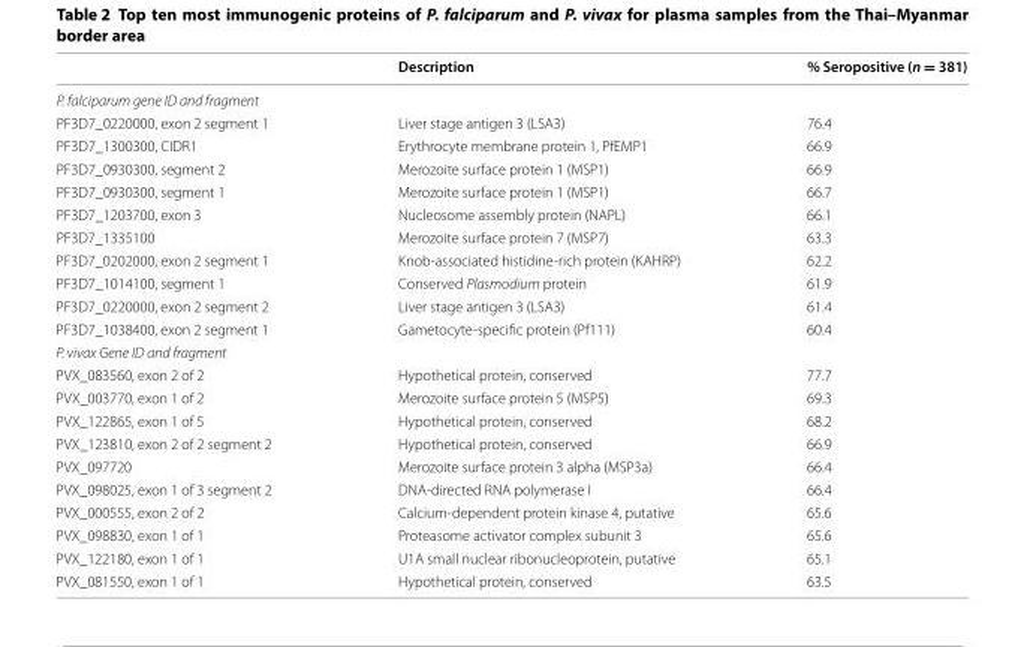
<table><thead><tr><td></td><td>Description</td><td>% Seropositive (n = 381)</td></tr></thead><tbody><tr><td colspan="3">P. falciparum gene ID and fragment</td></tr><tr><td>PF3D7_0220000, exon 2 segment 1</td><td>Liver stage antigen 3 (LSA3)</td><td>76.4</td></tr><tr><td>PF3D7_1300300, CIDR1</td><td>Erythrocyte membrane protein 1, PfEMP1</td><td>66.9</td></tr><tr><td>PF3D7_0930300, segment 2</td><td>Merozoite surface protein 1 (MSP1)</td><td>66.9</td></tr><tr><td>PF3D7_0930300, segment 1</td><td>Merozoite surface protein 1 (MSP1)</td><td>66.7</td></tr><tr><td>PF3D7_1203700, exon 3</td><td>Nucleosome assembly protein (NAPL)</td><td>66.1</td></tr><tr><td>PF3D7_1335100</td><td>Merozoite surface protein 7 (MSP7)</td><td>63.3</td></tr><tr><td>PF3D7_0202000, exon 2 segment 1</td><td>Knob‑associated histidine‑rich protein (KAHRP)</td><td>62.2</td></tr><tr><td>PF3D7_1014100, segment 1</td><td>Conserved Plasmodium protein</td><td>61.9</td></tr><tr><td>PF3D7_0220000, exon 2 segment 2</td><td>Liver stage antigen 3 (LSA3)</td><td>61.4</td></tr><tr><td>PF3D7_1038400, exon 2 segment 1</td><td>Gametocyte‑specific protein (Pf111)</td><td>60.4</td></tr><tr><td colspan="3">P. vivax Gene ID and fragment</td></tr><tr><td>PVX_083560, exon 2 of 2</td><td>Hypothetical protein, conserved</td><td>77.7</td></tr><tr><td>PVX_003770, exon 1 of 2</td><td>Merozoite surface protein 5 (MSP5)</td><td>69.3</td></tr><tr><td>PVX_122865, exon 1 of 5</td><td>Hypothetical protein, conserved</td><td>68.2</td></tr><tr><td>PVX_123810, exon 2 of 2 segment 2</td><td>Hypothetical protein, conserved</td><td>66.9</td></tr><tr><td>PVX_097720</td><td>Merozoite surface protein 3 alpha (MSP3a)</td><td>66.4</td></tr><tr><td>PVX_098025, exon 1 of 3 segment 2</td><td>DNA‑directed RNA polymerase I</td><td>66.4</td></tr><tr><td>PVX_000555, exon 2 of 2</td><td>Calcium‑dependent protein kinase 4, putative</td><td>65.6</td></tr><tr><td>PVX_098830, exon 1 of 1</td><td>Proteasome activator complex subunit 3</td><td>65.6</td></tr><tr><td>PVX_122180, exon 1 of 1</td><td>U1A small nuclear ribonucleoprotein, putative</td><td>65.1</td></tr><tr><td>PVX_081550, exon 1 of 1</td><td>Hypothetical protein, conserved</td><td>63.5</td></tr></tbody></table>